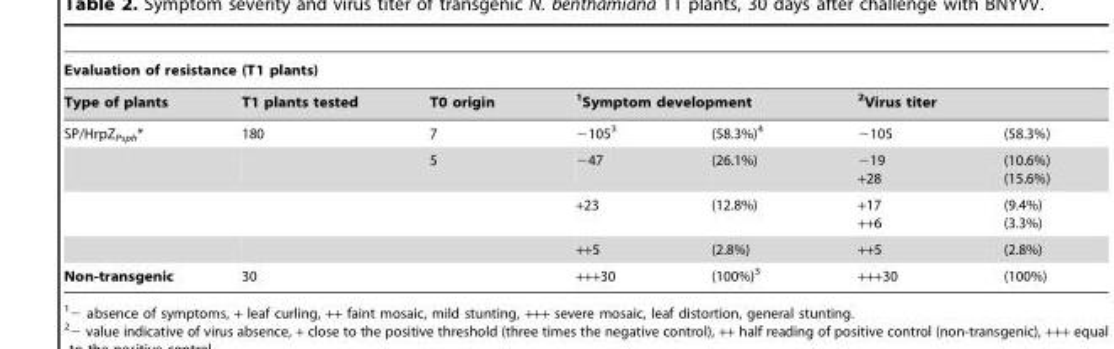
<table><thead><tr><td colspan="7">Evaluation of resistance (T1 plants)</td></tr><tr><td rowspan="2">Type of plants SP/HrpZ<sub>Psph</sub>*</td><td rowspan="2">T1 plants tested 180</td><td rowspan="2">T0 origin 7</td><td colspan="2">1Symptom development</td><td colspan="2">2Virus titer</td></tr><tr><td>−105<sup>3</sup></td><td>(58.3%)<sup>4</sup></td><td>−105</td><td>(58.3%)</td></tr></thead><tbody><tr><td></td><td></td><td>5</td><td>−47</td><td>(26.1%)</td><td>−19 +28</td><td>(10.6%) (15.6%)</td></tr><tr><td></td><td></td><td></td><td>+23</td><td>(12.8%)</td><td>+17 ++6</td><td>(9.4%) (3.3%)</td></tr><tr><td></td><td></td><td></td><td>++5</td><td>(2.8%)</td><td>++5</td><td>(2.8%)</td></tr><tr><td>Non-transgenic</td><td>30</td><td></td><td>+++30</td><td>(100%)<sup>3</sup></td><td>+++30</td><td>(100%)</td></tr></tbody></table>